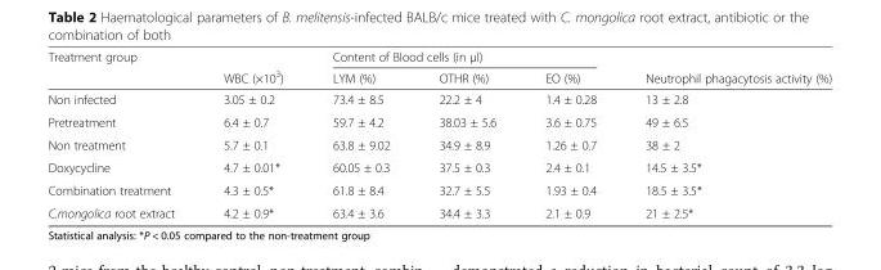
<table><thead><tr><td rowspan="2">Treatment group</td><td rowspan="2">WBC (×10<sup>3</sup>)</td><td colspan="3">Content of Blood cells (in μl)</td><td rowspan="2">Neutrophil phagacytosis activity (%)</td></tr><tr><td>LYM (%)</td><td>OTHR (%)</td><td>EO (%)</td></tr></thead><tbody><tr><td>Non infected</td><td>3.05 ± 0.2</td><td>73.4 ± 8.5</td><td>22.2 ± 4</td><td>1.4 ± 0.28</td><td>13 ± 2.8</td></tr><tr><td>Pretreatment</td><td>6.4 ± 0.7</td><td>59.7 ± 4.2</td><td>38.03 ± 5.6</td><td>3.6 ± 0.75</td><td>49 ± 6.5</td></tr><tr><td>Non treatment</td><td>5.7 ± 0.1</td><td>63.8 ± 9.02</td><td>34.9 ± 8.9</td><td>1.26 ± 0.7</td><td>38 ± 2</td></tr><tr><td>Doxycycline</td><td>4.7 ± 0.01*</td><td>60.05 ± 0.3</td><td>37.5 ± 0.3</td><td>2.4 ± 0.1</td><td>14.5 ± 3.5*</td></tr><tr><td>Combination treatment</td><td>4.3 ± 0.5*</td><td>61.8 ± 8.4</td><td>32.7 ± 5.5</td><td>1.93 ± 0.4</td><td>18.5 ± 3.5*</td></tr><tr><td>C.mongolica root extract</td><td>4.2 ± 0.9*</td><td>63.4 ± 3.6</td><td>34.4 ± 3.3</td><td>2.1 ± 0.9</td><td>21 ± 2.5*</td></tr></tbody></table>